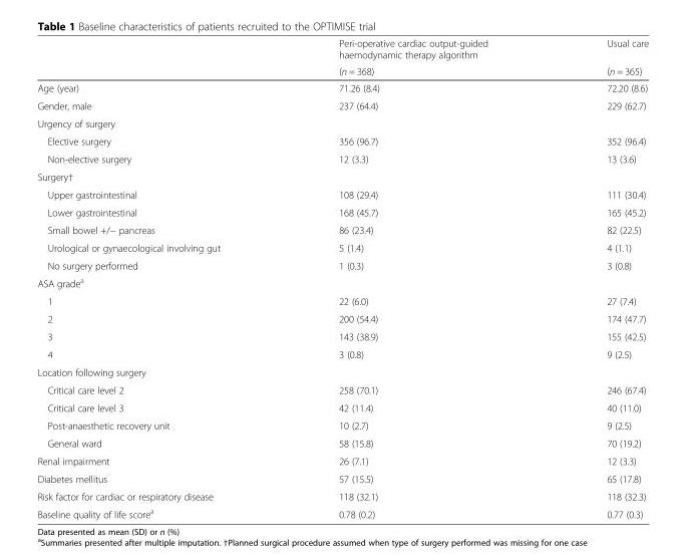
<table><thead><tr><td rowspan="2"></td><td rowspan="2">Peri-operative cardiac output-guided haemodynamic therapy algorithm (n = 368)</td><td rowspan="2">Usual care (n = 365)</td></tr><tr></tr></thead><tbody><tr><td>Age (year)</td><td>71.26 (8.4)</td><td>72.20 (8.6)</td></tr><tr><td>Gender, male</td><td>237 (64.4)</td><td>229 (62.7)</td></tr><tr><td colspan="3">Urgency of surgery</td></tr><tr><td>Elective surgery</td><td>356 (96.7)</td><td>352 (96.4)</td></tr><tr><td>Non-elective surgery</td><td>12 (3.3)</td><td>13 (3.6)</td></tr><tr><td colspan="3">Surgery†</td></tr><tr><td>Upper gastrointestinal</td><td>108 (29.4)</td><td>111 (30.4)</td></tr><tr><td>Lower gastrointestinal</td><td>168 (45.7)</td><td>165 (45.2)</td></tr><tr><td>Small bowel +/− pancreas</td><td>86 (23.4)</td><td>82 (22.5)</td></tr><tr><td>Urological or gynaecological involving gut</td><td>5 (1.4)</td><td>4 (1.1)</td></tr><tr><td>No surgery performed</td><td>1 (0.3)</td><td>3 (0.8)</td></tr><tr><td colspan="3">ASA grade<sup>a</sup></td></tr><tr><td>1</td><td>22 (6.0)</td><td>27 (7.4)</td></tr><tr><td>2</td><td>200 (54.4)</td><td>174 (47.7)</td></tr><tr><td>3</td><td>143 (38.9)</td><td>155 (42.5)</td></tr><tr><td>4</td><td>3 (0.8)</td><td>9 (2.5)</td></tr><tr><td colspan="3">Location following surgery</td></tr><tr><td>Critical care level 2</td><td>258 (70.1)</td><td>246 (67.4)</td></tr><tr><td>Critical care level 3</td><td>42 (11.4)</td><td>40 (11.0)</td></tr><tr><td>Post-anaesthetic recovery unit</td><td>10 (2.7)</td><td>9 (2.5)</td></tr><tr><td>General ward</td><td>58 (15.8)</td><td>70 (19.2)</td></tr><tr><td>Renal impairment</td><td>26 (7.1)</td><td>12 (3.3)</td></tr><tr><td>Diabetes mellitus</td><td>57 (15.5)</td><td>65 (17.8)</td></tr><tr><td>Risk factor for cardiac or respiratory disease</td><td>118 (32.1)</td><td>118 (32.3)</td></tr><tr><td>Baseline quality of life score<sup>a</sup></td><td>0.78 (0.2)</td><td>0.77 (0.3)</td></tr></tbody></table>